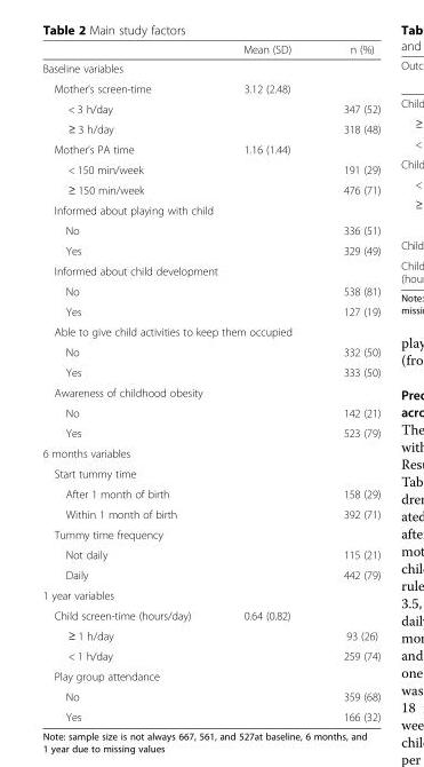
<table><thead><tr><td></td><td>Mean (SD)</td><td>n (%)</td></tr></thead><tbody><tr><td colspan="3">Baseline variables</td></tr><tr><td>Mother’s screen-time</td><td>3.12 (2.48)</td><td></td></tr><tr><td>&lt; 3 h/day</td><td></td><td>347 (52)</td></tr><tr><td>≥ 3 h/day</td><td></td><td>318 (48)</td></tr><tr><td>Mother’s PA time</td><td>1.16 (1.44)</td><td></td></tr><tr><td>&lt; 150 min/week</td><td></td><td>191 (29)</td></tr><tr><td>≥ 150 min/week</td><td></td><td>476 (71)</td></tr><tr><td colspan="3">Informed about playing with child</td></tr><tr><td>No</td><td></td><td>336 (51)</td></tr><tr><td>Yes</td><td></td><td>329 (49)</td></tr><tr><td colspan="3">Informed about child development</td></tr><tr><td>No</td><td></td><td>538 (81)</td></tr><tr><td>Yes</td><td></td><td>127 (19)</td></tr><tr><td colspan="3">Able to give child activities to keep them occupied</td></tr><tr><td>No</td><td></td><td>332 (50)</td></tr><tr><td>Yes</td><td></td><td>333 (50)</td></tr><tr><td colspan="3">Awareness of childhood obesity</td></tr><tr><td>No</td><td></td><td>142 (21)</td></tr><tr><td>Yes</td><td></td><td>523 (79)</td></tr><tr><td colspan="3">6 months variables</td></tr><tr><td colspan="3">Start tummy time</td></tr><tr><td>After 1 month of birth</td><td></td><td>158 (29)</td></tr><tr><td>Within 1 month of birth</td><td></td><td>392 (71)</td></tr><tr><td colspan="3">Tummy time frequency</td></tr><tr><td>Not daily</td><td></td><td>115 (21)</td></tr><tr><td>Daily</td><td></td><td>442 (79)</td></tr><tr><td colspan="3">1 year variables</td></tr><tr><td>Child screen-time (hours/day)</td><td>0.64 (0.82)</td><td></td></tr><tr><td>≥ 1 h/day</td><td></td><td>93 (26)</td></tr><tr><td>&lt; 1 h/day</td><td></td><td>259 (74)</td></tr><tr><td colspan="3">Play group attendance</td></tr><tr><td>No</td><td></td><td>359 (68)</td></tr><tr><td>Yes</td><td></td><td>166 (32)</td></tr></tbody></table>